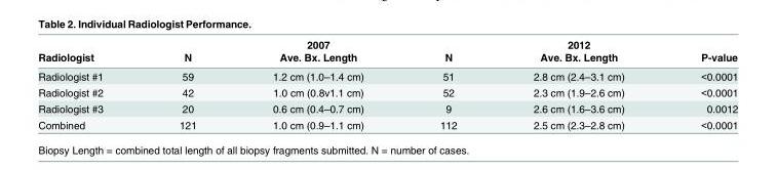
<table><thead><tr><td rowspan="2">Radiologist</td><td rowspan="2">N</td><td rowspan="2">2007 Ave. Bx. Length</td><td rowspan="2">N</td><td rowspan="2">2012 Ave. Bx. Length</td><td rowspan="2">P-value</td></tr><tr></tr></thead><tbody><tr><td>Radiologist #1</td><td>59</td><td>1.2 cm (1.0–1.4 cm)</td><td>51</td><td>2.8 cm (2.4–3.1 cm)</td><td>&lt;0.0001</td></tr><tr><td>Radiologist #2</td><td>42</td><td>1.0 cm (0.8v1.1 cm)</td><td>52</td><td>2.3 cm (1.9–2.6 cm)</td><td>&lt;0.0001</td></tr><tr><td>Radiologist #3</td><td>20</td><td>0.6 cm (0.4–0.7 cm)</td><td>9</td><td>2.6 cm (1.6–3.6 cm)</td><td>0.0012</td></tr><tr><td>Combined</td><td>121</td><td>1.0 cm (0.9–1.1 cm)</td><td>112</td><td>2.5 cm (2.3–2.8 cm)</td><td>&lt;0.0001</td></tr></tbody></table>